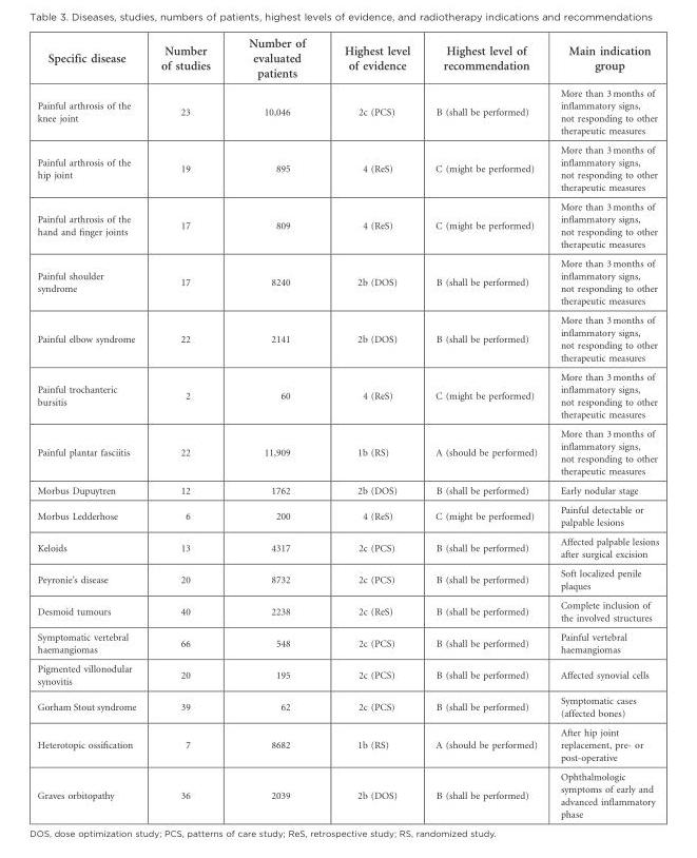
<table><thead><tr><td>Specific disease</td><td>Number of studies</td><td>Number of evaluated patients</td><td>Highest level of evidence</td><td>Highest level of recommendation</td><td>Main indication group</td></tr></thead><tbody><tr><td>Painful arthrosis of the knee joint</td><td>23</td><td>10,046</td><td>2c (PCS)</td><td>B (shall be performed)</td><td>More than 3 months of inflammatory signs, not responding to other therapeutic measures</td></tr><tr><td>Painful arthrosis of the hip joint</td><td>19</td><td>895</td><td>4 (ReS)</td><td>C (might be performed)</td><td>More than 3 months of inflammatory signs, not responding to other therapeutic measures</td></tr><tr><td>Painful arthrosis of the hand and finger joints</td><td>17</td><td>809</td><td>4 (ReS)</td><td>C (might be performed)</td><td>More than 3 months of inflammatory signs, not responding to other therapeutic measures</td></tr><tr><td>Painful shoulder syndrome</td><td>17</td><td>8240</td><td>2b (DOS)</td><td>B (shall be performed)</td><td>More than 3 months of inflammatory signs, not responding to other therapeutic measures</td></tr><tr><td>Painful elbow syndrome</td><td>22</td><td>2141</td><td>2b (DOS)</td><td>B (shall be performed)</td><td>More than 3 months of inflammatory signs, not responding to other therapeutic measures</td></tr><tr><td>Painful trochanteric bursitis</td><td>2</td><td>60</td><td>4 (ReS)</td><td>C (might be performed)</td><td>More than 3 months of inflammatory signs, not responding to other therapeutic measures</td></tr><tr><td>Painful plantar fasciitis</td><td>22</td><td>11,909</td><td>1b (RS)</td><td>A (should be performed)</td><td>More than 3 months of inflammatory signs, not responding to other therapeutic measures</td></tr><tr><td>Morbus Dupuytren</td><td>12</td><td>1762</td><td>2b (DOS)</td><td>B (shall be performed)</td><td>Early nodular stage</td></tr><tr><td>Morbus Ledderhose</td><td>6</td><td>200</td><td>4 (ReS)</td><td>C (might be performed)</td><td>Painful detectable or palpable lesions</td></tr><tr><td>Keloids</td><td>13</td><td>4317</td><td>2c (PCS)</td><td>B (shall be performed)</td><td>Affected palpable lesions after surgical excision</td></tr><tr><td>Peyronie’s disease</td><td>20</td><td>8732</td><td>2c (PCS)</td><td>B (shall be performed)</td><td>Soft localized penile plaques</td></tr><tr><td>Desmoid tumours</td><td>40</td><td>2238</td><td>2c (ReS)</td><td>B (shall be performed)</td><td>Complete inclusion of the involved structures</td></tr><tr><td>Symptomatic vertebral haemangiomas</td><td>66</td><td>548</td><td>2c (PCS)</td><td>B (shall be performed)</td><td>Painful vertebral haemangiomas</td></tr><tr><td>Pigmented villonodular synovitis</td><td>20</td><td>195</td><td>2c (PCS)</td><td>B (shall be performed)</td><td>Affected synovial cells</td></tr><tr><td>Gorham Stout syndrome</td><td>39</td><td>62</td><td>2c (PCS)</td><td>B (shall be performed)</td><td>Symptomatic cases (affected bones)</td></tr><tr><td>Heterotopic ossification</td><td>7</td><td>8682</td><td>1b (RS)</td><td>A (should be performed)</td><td>After hip joint replacement, pre- or post-operative</td></tr><tr><td>Graves orbitopathy</td><td>36</td><td>2039</td><td>2b (DOS)</td><td>B (shall be performed)</td><td>Ophthalmologic symptoms of early and advanced inflammatory phase</td></tr></tbody></table>